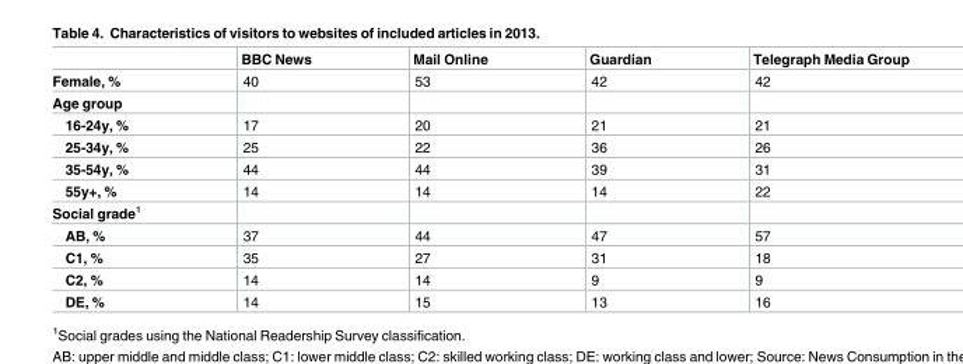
<table><thead><tr><td></td><td>BBC News</td><td>Mail Online</td><td>Guardian</td><td>Telegraph Media Group</td></tr></thead><tbody><tr><td>Female, %</td><td>40</td><td>53</td><td>42</td><td>42</td></tr><tr><td colspan="5">Age group</td></tr><tr><td>16-24y, %</td><td>17</td><td>20</td><td>21</td><td>21</td></tr><tr><td>25-34y, %</td><td>25</td><td>22</td><td>36</td><td>26</td></tr><tr><td>35-54y, %</td><td>44</td><td>44</td><td>39</td><td>31</td></tr><tr><td>55y+, %</td><td>14</td><td>14</td><td>14</td><td>22</td></tr><tr><td colspan="5">Social grade<sup>1</sup></td></tr><tr><td>AB, %</td><td>37</td><td>44</td><td>47</td><td>57</td></tr><tr><td>C1, %</td><td>35</td><td>27</td><td>31</td><td>18</td></tr><tr><td>C2, %</td><td>14</td><td>14</td><td>9</td><td>9</td></tr><tr><td>DE, %</td><td>14</td><td>15</td><td>13</td><td>16</td></tr></tbody></table>